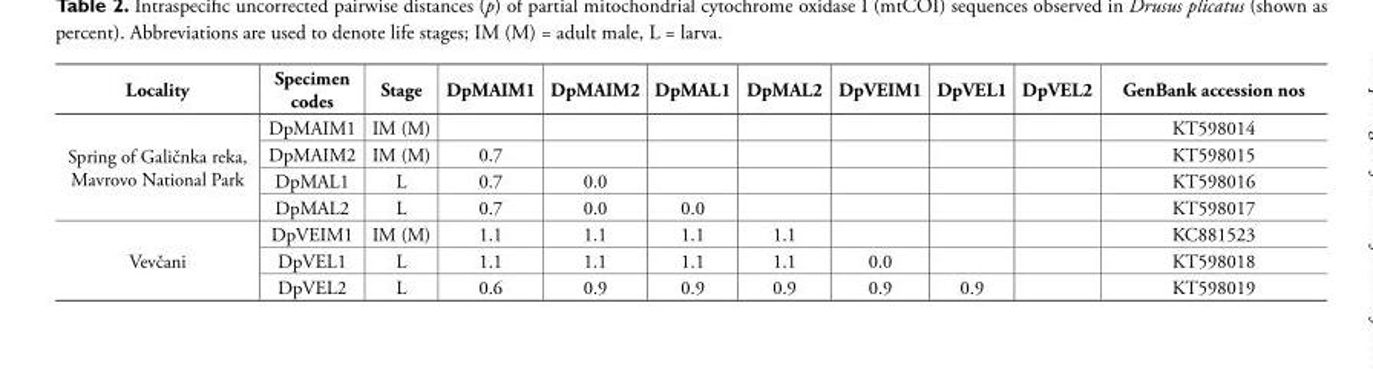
<table><thead><tr><td>Locality</td><td>Specimen codes</td><td>Stage</td><td>DpMAIM1</td><td>DpMAIM2</td><td>DpMAL1</td><td>DpMAL2</td><td>DpVEIM1</td><td>DpVEL1</td><td>DpVEL2</td><td>GenBank accession nos</td></tr></thead><tbody><tr><td rowspan="4">Spring of Galičnka reka, Mavrovo National Park</td><td>DpMAIM1</td><td>IM (M)</td><td></td><td></td><td></td><td></td><td></td><td></td><td></td><td>KT598014</td></tr><tr><td>DpMAIM2</td><td>IM (M)</td><td>0.7</td><td></td><td></td><td></td><td></td><td></td><td></td><td>KT598015</td></tr><tr><td>DpMAL1</td><td>L</td><td>0.7</td><td>0.0</td><td></td><td></td><td></td><td></td><td></td><td>KT598016</td></tr><tr><td>DpMAL2</td><td>L</td><td>0.7</td><td>0.0</td><td>0.0</td><td></td><td></td><td></td><td></td><td>KT598017</td></tr><tr><td rowspan="3">Vevčani</td><td>DpVEIM1</td><td>IM (M)</td><td>1.1</td><td>1.1</td><td>1.1</td><td>1.1</td><td></td><td></td><td></td><td>KC881523</td></tr><tr><td>DpVEL1</td><td>L</td><td>1.1</td><td>1.1</td><td>1.1</td><td>1.1</td><td>0.0</td><td></td><td></td><td>KT598018</td></tr><tr><td>DpVEL2</td><td>L</td><td>0.6</td><td>0.9</td><td>0.9</td><td>0.9</td><td>0.9</td><td>0.9</td><td></td><td>KT598019</td></tr></tbody></table>